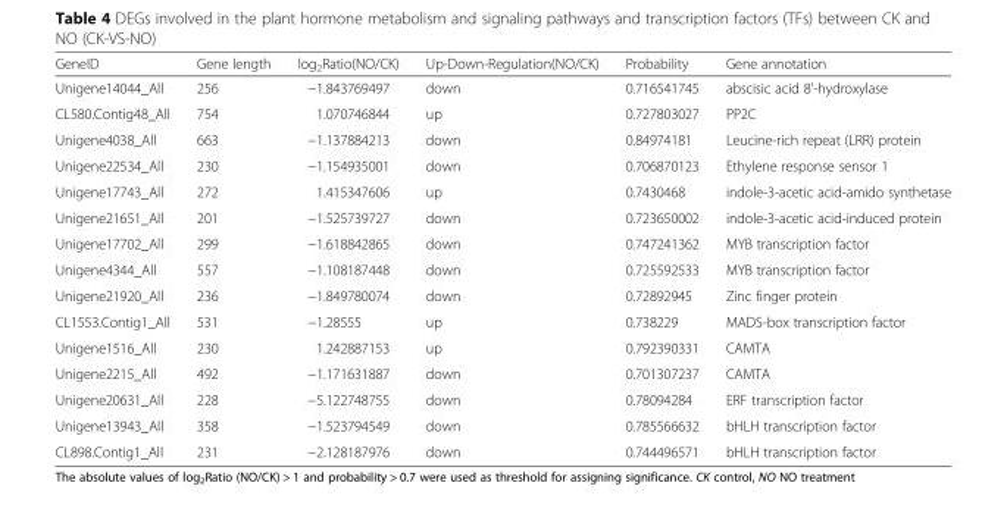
<table><thead><tr><td>GeneID</td><td>Gene length</td><td>log<sub>2</sub>Ratio(NO/CK)</td><td>Up-Down-Regulation(NO/CK)</td><td>Probability</td><td>Gene annotation</td></tr></thead><tbody><tr><td>Unigene14044_All</td><td>256</td><td>−1.843769497</td><td>down</td><td>0.716541745</td><td>abscisic acid 8&#x27;-hydroxylase</td></tr><tr><td>CL580.Contig48_All</td><td>754</td><td>1.070746844</td><td>up</td><td>0.727803027</td><td>PP2C</td></tr><tr><td>Unigene4038_All</td><td>663</td><td>−1.137884213</td><td>down</td><td>0.84974181</td><td>Leucine-rich repeat (LRR) protein</td></tr><tr><td>Unigene22534_All</td><td>230</td><td>−1.154935001</td><td>down</td><td>0.706870123</td><td>Ethylene response sensor 1</td></tr><tr><td>Unigene17743_All</td><td>272</td><td>1.415347606</td><td>up</td><td>0.7430468</td><td>indole-3-acetic acid-amido synthetase</td></tr><tr><td>Unigene21651_All</td><td>201</td><td>−1.525739727</td><td>down</td><td>0.723650002</td><td>indole-3-acetic acid-induced protein</td></tr><tr><td>Unigene17702_All</td><td>299</td><td>−1.618842865</td><td>down</td><td>0.747241362</td><td>MYB transcription factor</td></tr><tr><td>Unigene4344_All</td><td>557</td><td>−1.108187448</td><td>down</td><td>0.725592533</td><td>MYB transcription factor</td></tr><tr><td>Unigene21920_All</td><td>236</td><td>−1.849780074</td><td>down</td><td>0.72892945</td><td>Zinc finger protein</td></tr><tr><td>CL1553.Contig1_All</td><td>531</td><td>−1.28555</td><td>up</td><td>0.738229</td><td>MADS-box transcription factor</td></tr><tr><td>Unigene1516_All</td><td>230</td><td>1.242887153</td><td>up</td><td>0.792390331</td><td>CAMTA</td></tr><tr><td>Unigene2215_All</td><td>492</td><td>−1.171631887</td><td>down</td><td>0.701307237</td><td>CAMTA</td></tr><tr><td>Unigene20631_All</td><td>228</td><td>−5.122748755</td><td>down</td><td>0.78094284</td><td>ERF transcription factor</td></tr><tr><td>Unigene13943_All</td><td>358</td><td>−1.523794549</td><td>down</td><td>0.785566632</td><td>bHLH transcription factor</td></tr><tr><td>CL898.Contig1_All</td><td>231</td><td>−2.128187976</td><td>down</td><td>0.744496571</td><td>bHLH transcription factor</td></tr></tbody></table>